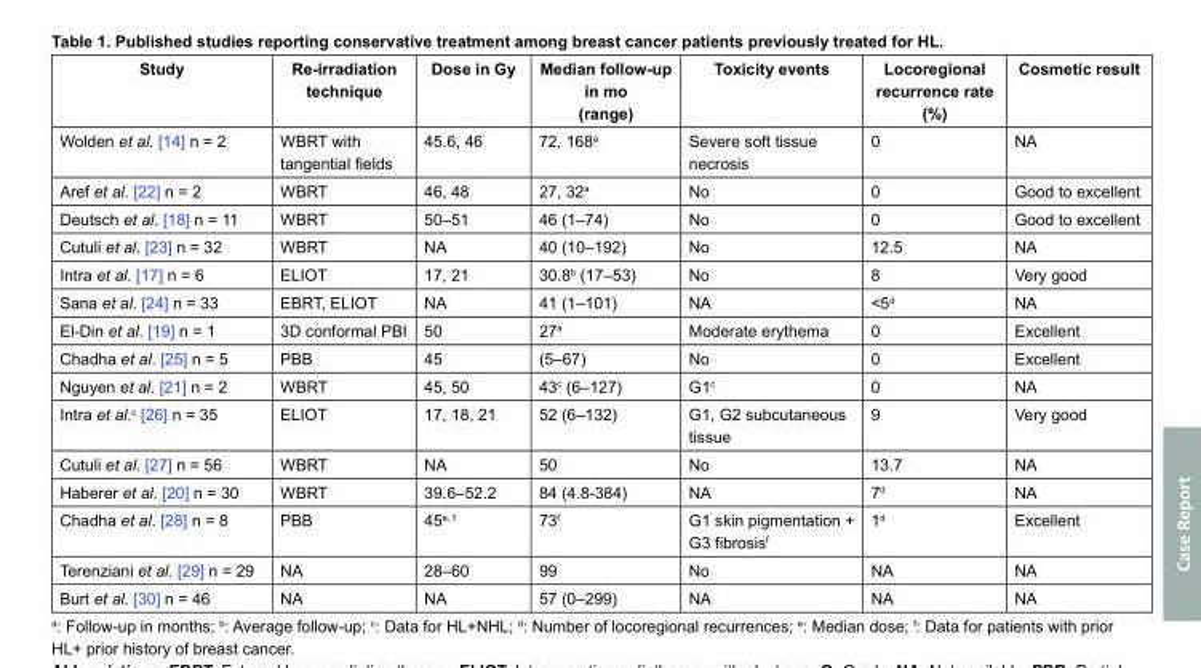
<table><thead><tr><td>Study</td><td>Re-irradiation technique</td><td>Dose in Gy</td><td>Median follow-up in mo (range)</td><td>Toxicity events</td><td>Locoregional recurrence rate (%)</td><td>Cosmetic result</td></tr></thead><tbody><tr><td>Wolden et al. [14] n = 2</td><td>WBRT with tangential fields</td><td>45.6, 46</td><td>72, 168<sup>a</sup></td><td>Severe soft tissue necrosis</td><td>0</td><td>NA</td></tr><tr><td>Aref et al. [22] n = 2</td><td>WBRT</td><td>46, 48</td><td>27, 32<sup>a</sup></td><td>No</td><td>0</td><td>Good to excellent</td></tr><tr><td>Deutsch et al. [18] n = 11</td><td>WBRT</td><td>50–51</td><td>46 (1–74)</td><td>No</td><td>0</td><td>Good to excellent</td></tr><tr><td>Cutuli et al. [23] n = 32</td><td>WBRT</td><td>NA</td><td>40 (10–192)</td><td>No</td><td>12.5</td><td>NA</td></tr><tr><td>Intra et al. [17] n = 6</td><td>ELIOT</td><td>17, 21</td><td>30.8<sup>b</sup> (17–53)</td><td>No</td><td>8</td><td>Very good</td></tr><tr><td>Sana et al. [24] n = 33</td><td>EBRT, ELIOT</td><td>NA</td><td>41 (1–101)</td><td>NA</td><td>&lt;5<sup>d</sup></td><td>NA</td></tr><tr><td>El-Din et al. [19] n = 1</td><td>3D conformal PBI</td><td>50</td><td>27<sup>a</sup></td><td>Moderate erythema</td><td>0</td><td>Excellent</td></tr><tr><td>Chadha et al. [25] n = 5</td><td>PBB</td><td>45</td><td>(5–67)</td><td>No</td><td>0</td><td>Excellent</td></tr><tr><td>Nguyen et al. [21] n = 2</td><td>WBRT</td><td>45, 50</td><td>43<sup>c</sup> (6–127)</td><td>G1<sup>c</sup></td><td>0</td><td>NA</td></tr><tr><td>Intra et al.<sup>c</sup> [26] n = 35</td><td>ELIOT</td><td>17, 18, 21</td><td>52 (6–132)</td><td>G1, G2 subcutaneous tissue</td><td>9</td><td>Very good</td></tr><tr><td>Cutuli et al. [27] n = 56</td><td>WBRT</td><td>NA</td><td>50</td><td>No</td><td>13.7</td><td>NA</td></tr><tr><td>Haberer et al. [20] n = 30</td><td>WBRT</td><td>39.6–52.2</td><td>84 (4.8-384)</td><td>NA</td><td>7<sup>d</sup></td><td>NA</td></tr><tr><td>Chadha et al. [28] n = 8</td><td>PBB</td><td>45<sup>e, f</sup></td><td>73<sup>f</sup></td><td>G1 skin pigmentation + G3 fibrosis<sup>f</sup></td><td>1<sup>d</sup></td><td>Excellent</td></tr><tr><td>Terenziani et al. [29] n = 29</td><td>NA</td><td>28–60</td><td>99</td><td>No</td><td>NA</td><td>NA</td></tr><tr><td>Burt et al. [30] n = 46</td><td>NA</td><td>NA</td><td>57 (0–299)</td><td>NA</td><td>NA</td><td>NA</td></tr></tbody></table>